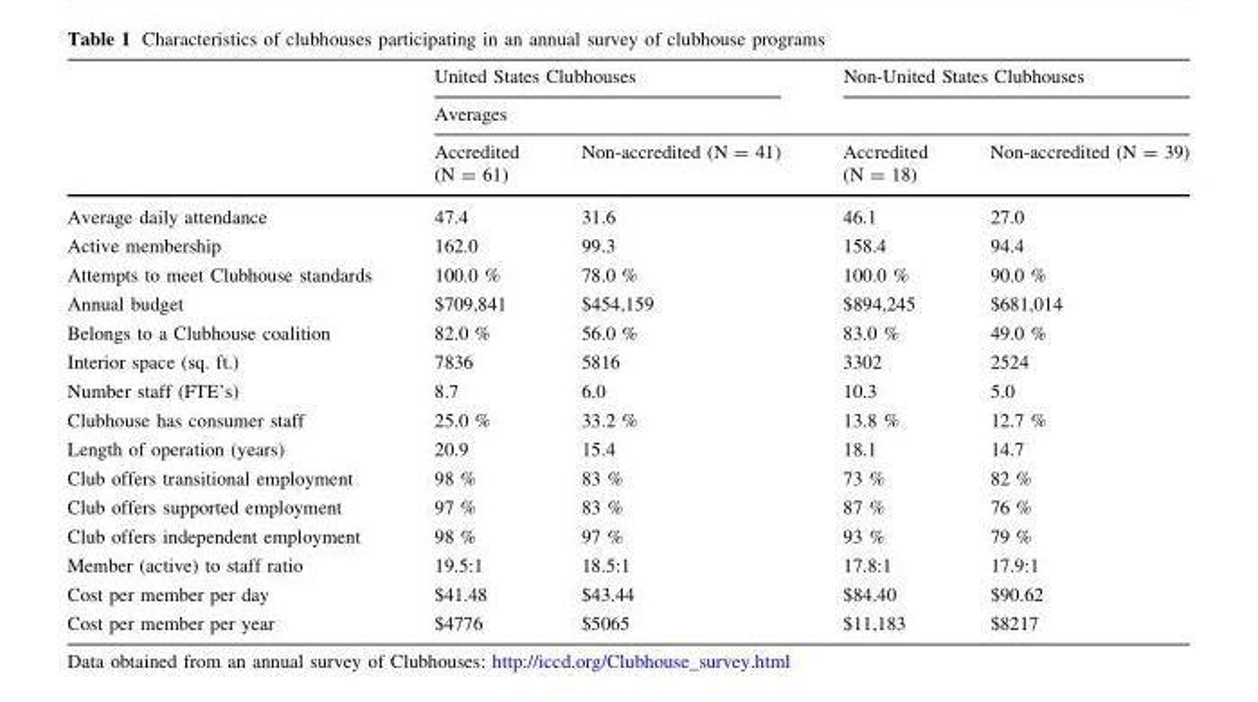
<table><thead><tr><td rowspan="3"></td><td colspan="2">United States Clubhouses</td><td colspan="2">Non-United States Clubhouses</td></tr><tr><td colspan="4">Averages</td></tr><tr><td>Accredited (N = 61)</td><td>Non-accredited (N = 41)</td><td>Accredited (N = 18)</td><td>Non-accredited (N = 39)</td></tr></thead><tbody><tr><td>Average daily attendance</td><td>47.4</td><td>31.6</td><td>46.1</td><td>27.0</td></tr><tr><td>Active membership</td><td>162.0</td><td>99.3</td><td>158.4</td><td>94.4</td></tr><tr><td>Attempts to meet Clubhouse standards</td><td>100.0 %</td><td>78.0 %</td><td>100.0 %</td><td>90.0 %</td></tr><tr><td>Annual budget</td><td>$709,841</td><td>$454,159</td><td>$894,245</td><td>$681,014</td></tr><tr><td>Belongs to a Clubhouse coalition</td><td>82.0 %</td><td>56.0 %</td><td>83.0 %</td><td>49.0 %</td></tr><tr><td>Interior space (sq. ft.)</td><td>7836</td><td>5816</td><td>3302</td><td>2524</td></tr><tr><td>Number staff (FTE’s)</td><td>8.7</td><td>6.0</td><td>10.3</td><td>5.0</td></tr><tr><td>Clubhouse has consumer staff</td><td>25.0 %</td><td>33.2 %</td><td>13.8 %</td><td>12.7 %</td></tr><tr><td>Length of operation (years)</td><td>20.9</td><td>15.4</td><td>18.1</td><td>14.7</td></tr><tr><td>Club offers transitional employment</td><td>98 %</td><td>83 %</td><td>73 %</td><td>82 %</td></tr><tr><td>Club offers supported employment</td><td>97 %</td><td>83 %</td><td>87 %</td><td>76 %</td></tr><tr><td>Club offers independent employment</td><td>98 %</td><td>97 %</td><td>93 %</td><td>79 %</td></tr><tr><td>Member (active) to staff ratio</td><td>19.5:1</td><td>18.5:1</td><td>17.8:1</td><td>17.9:1</td></tr><tr><td>Cost per member per day</td><td>$41.48</td><td>$43.44</td><td>$84.40</td><td>$90.62</td></tr><tr><td>Cost per member per year</td><td>$4776</td><td>$5065</td><td>$11,183</td><td>$8217</td></tr></tbody></table>